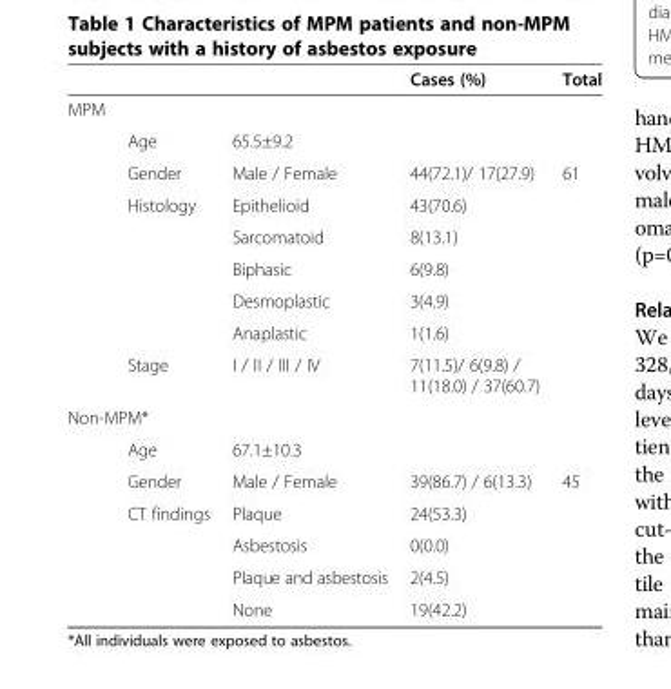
<table><thead><tr><td></td><td></td><td></td><td>Cases (%)</td><td>Total</td></tr></thead><tbody><tr><td colspan="5">MPM</td></tr><tr><td></td><td>Age</td><td colspan="2">65.5±9.2</td><td></td></tr><tr><td></td><td>Gender</td><td>Male / Female</td><td>44(72.1)/ 17(27.9)</td><td>61</td></tr><tr><td></td><td>Histology</td><td>Epithelioid</td><td>43(70.6)</td><td></td></tr><tr><td></td><td></td><td>Sarcomatoid</td><td>8(13.1)</td><td></td></tr><tr><td></td><td></td><td>Biphasic</td><td>6(9.8)</td><td></td></tr><tr><td></td><td></td><td>Desmoplastic</td><td>3(4.9)</td><td></td></tr><tr><td></td><td></td><td>Anaplastic</td><td>1(1.6)</td><td></td></tr><tr><td></td><td>Stage</td><td>I / II / III / IV</td><td>7(11.5)/ 6(9.8) / 11(18.0) / 37(60.7)</td><td></td></tr><tr><td colspan="5">Non-MPM*</td></tr><tr><td></td><td>Age</td><td colspan="2">67.1±10.3</td><td></td></tr><tr><td></td><td>Gender</td><td>Male / Female</td><td>39(86.7) / 6(13.3)</td><td>45</td></tr><tr><td></td><td>CT findings</td><td>Plaque</td><td>24(53.3)</td><td></td></tr><tr><td></td><td></td><td>Asbestosis</td><td>0(0.0)</td><td></td></tr><tr><td></td><td></td><td>Plaque and asbestosis</td><td>2(4.5)</td><td></td></tr><tr><td></td><td></td><td>None</td><td>19(42.2)</td><td></td></tr></tbody></table>